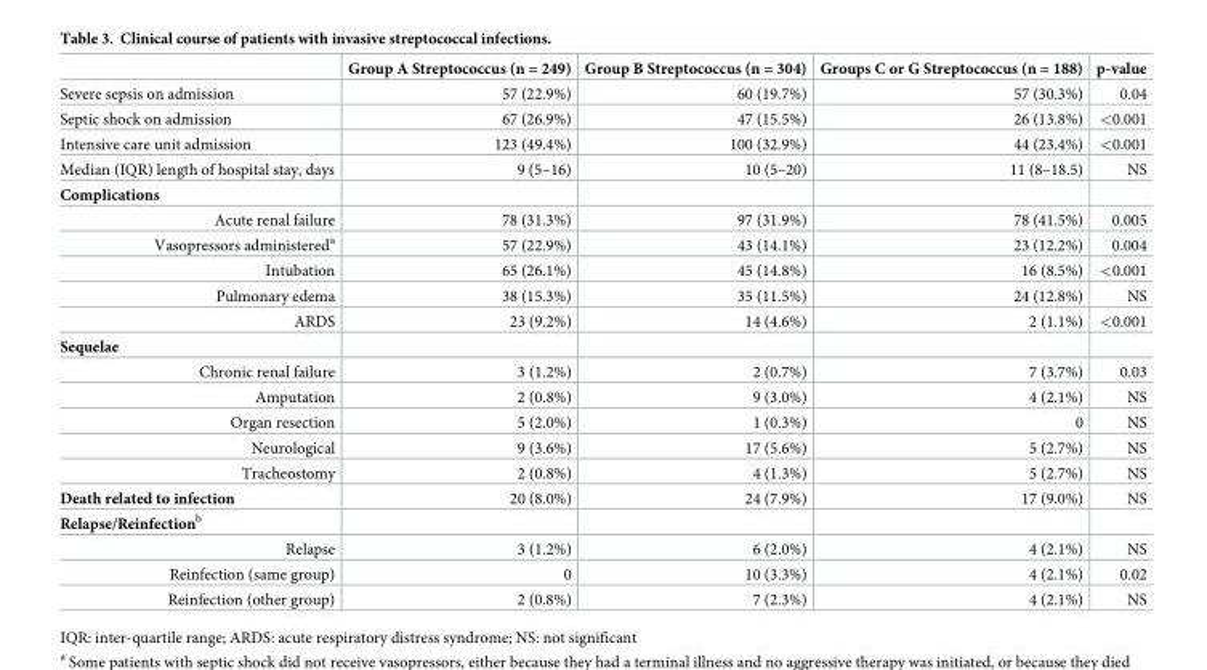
<table><thead><tr><td></td><td>Group A Streptococcus (n = 249)</td><td>Group B Streptococcus (n = 304)</td><td>Groups C or G Streptococcus (n = 188)</td><td>p-value</td></tr></thead><tbody><tr><td>Severe sepsis on admission</td><td>57 (22.9%)</td><td>60 (19.7%)</td><td>57 (30.3%)</td><td>0.04</td></tr><tr><td>Septic shock on admission</td><td>67 (26.9%)</td><td>47 (15.5%)</td><td>26 (13.8%)</td><td>&lt;0.001</td></tr><tr><td>Intensive care unit admission</td><td>123 (49.4%)</td><td>100 (32.9%)</td><td>44 (23.4%)</td><td>&lt;0.001</td></tr><tr><td>Median (IQR) length of hospital stay, days</td><td>9 (5–16)</td><td>10 (5–20)</td><td>11 (8–18.5)</td><td>NS</td></tr><tr><td colspan="5">Complications</td></tr><tr><td>Acute renal failure</td><td>78 (31.3%)</td><td>97 (31.9%)</td><td>78 (41.5%)</td><td>0.005</td></tr><tr><td>Vasopressors administered<sup>a</sup></td><td>57 (22.9%)</td><td>43 (14.1%)</td><td>23 (12.2%)</td><td>0.004</td></tr><tr><td>Intubation</td><td>65 (26.1%)</td><td>45 (14.8%)</td><td>16 (8.5%)</td><td>&lt;0.001</td></tr><tr><td>Pulmonary edema</td><td>38 (15.3%)</td><td>35 (11.5%)</td><td>24 (12.8%)</td><td>NS</td></tr><tr><td>ARDS</td><td>23 (9.2%)</td><td>14 (4.6%)</td><td>2 (1.1%)</td><td>&lt;0.001</td></tr><tr><td colspan="5">Sequelae</td></tr><tr><td>Chronic renal failure</td><td>3 (1.2%)</td><td>2 (0.7%)</td><td>7 (3.7%)</td><td>0.03</td></tr><tr><td>Amputation</td><td>2 (0.8%)</td><td>9 (3.0%)</td><td>4 (2.1%)</td><td>NS</td></tr><tr><td>Organ resection</td><td>5 (2.0%)</td><td>1 (0.3%)</td><td>0</td><td>NS</td></tr><tr><td>Neurological</td><td>9 (3.6%)</td><td>17 (5.6%)</td><td>5 (2.7%)</td><td>NS</td></tr><tr><td>Tracheostomy</td><td>2 (0.8%)</td><td>4 (1.3%)</td><td>5 (2.7%)</td><td>NS</td></tr><tr><td>Death related to infection</td><td>20 (8.0%)</td><td>24 (7.9%)</td><td>17 (9.0%)</td><td>NS</td></tr><tr><td colspan="5">Relapse/Reinfection<sup>b</sup></td></tr><tr><td>Relapse</td><td>3 (1.2%)</td><td>6 (2.0%)</td><td>4 (2.1%)</td><td>NS</td></tr><tr><td>Reinfection (same group)</td><td>0</td><td>10 (3.3%)</td><td>4 (2.1%)</td><td>0.02</td></tr><tr><td>Reinfection (other group)</td><td>2 (0.8%)</td><td>7 (2.3%)</td><td>4 (2.1%)</td><td>NS</td></tr></tbody></table>